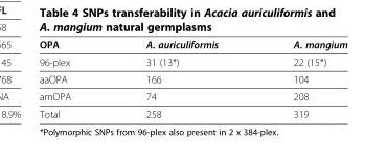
<table><thead><tr><td>OPA</td><td>A. auriculiformis</td><td>A. mangium</td></tr></thead><tbody><tr><td>96-plex</td><td>31 (13*)</td><td>22 (15*)</td></tr><tr><td>aaOPA</td><td>166</td><td>104</td></tr><tr><td>amOPA</td><td>74</td><td>208</td></tr><tr><td>Total</td><td>258</td><td>319</td></tr></tbody></table>